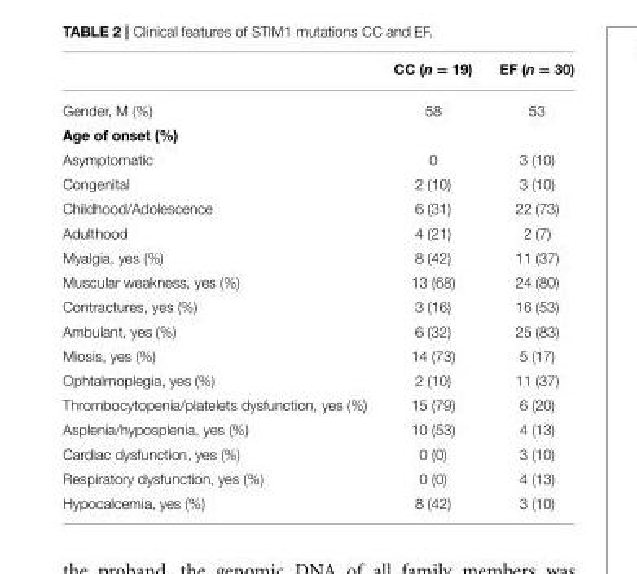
<table><thead><tr><td></td><td>CC (n = 19)</td><td>EF (n = 30)</td></tr></thead><tbody><tr><td>Gender, M (%)</td><td>58</td><td>53</td></tr><tr><td colspan="3">Age of onset (%)</td></tr><tr><td>Asymptomatic</td><td>0</td><td>3 (10)</td></tr><tr><td>Congenital</td><td>2 (10)</td><td>3 (10)</td></tr><tr><td>Childhood/Adolescence</td><td>6 (31)</td><td>22 (73)</td></tr><tr><td>Adulthood</td><td>4 (21)</td><td>2 (7)</td></tr><tr><td>Myalgia, yes (%)</td><td>8 (42)</td><td>11 (37)</td></tr><tr><td>Muscular weakness, yes (%)</td><td>13 (68)</td><td>24 (80)</td></tr><tr><td>Contractures, yes (%)</td><td>3 (16)</td><td>16 (53)</td></tr><tr><td>Ambulant, yes (%)</td><td>6 (32)</td><td>25 (83)</td></tr><tr><td>Miosis, yes (%)</td><td>14 (73)</td><td>5 (17)</td></tr><tr><td>Ophtalmoplegia, yes (%)</td><td>2 (10)</td><td>11 (37)</td></tr><tr><td>Thrombocytopenia/platelets dysfunction, yes (%)</td><td>15 (79)</td><td>6 (20)</td></tr><tr><td>Asplenia/hyposplenia, yes (%)</td><td>10 (53)</td><td>4 (13)</td></tr><tr><td>Cardiac dysfunction, yes (%)</td><td>0 (0)</td><td>3 (10)</td></tr><tr><td>Respiratory dysfunction, yes (%)</td><td>0 (0)</td><td>4 (13)</td></tr><tr><td>Hypocalcemia, yes (%)</td><td>8 (42)</td><td>3 (10)</td></tr></tbody></table>